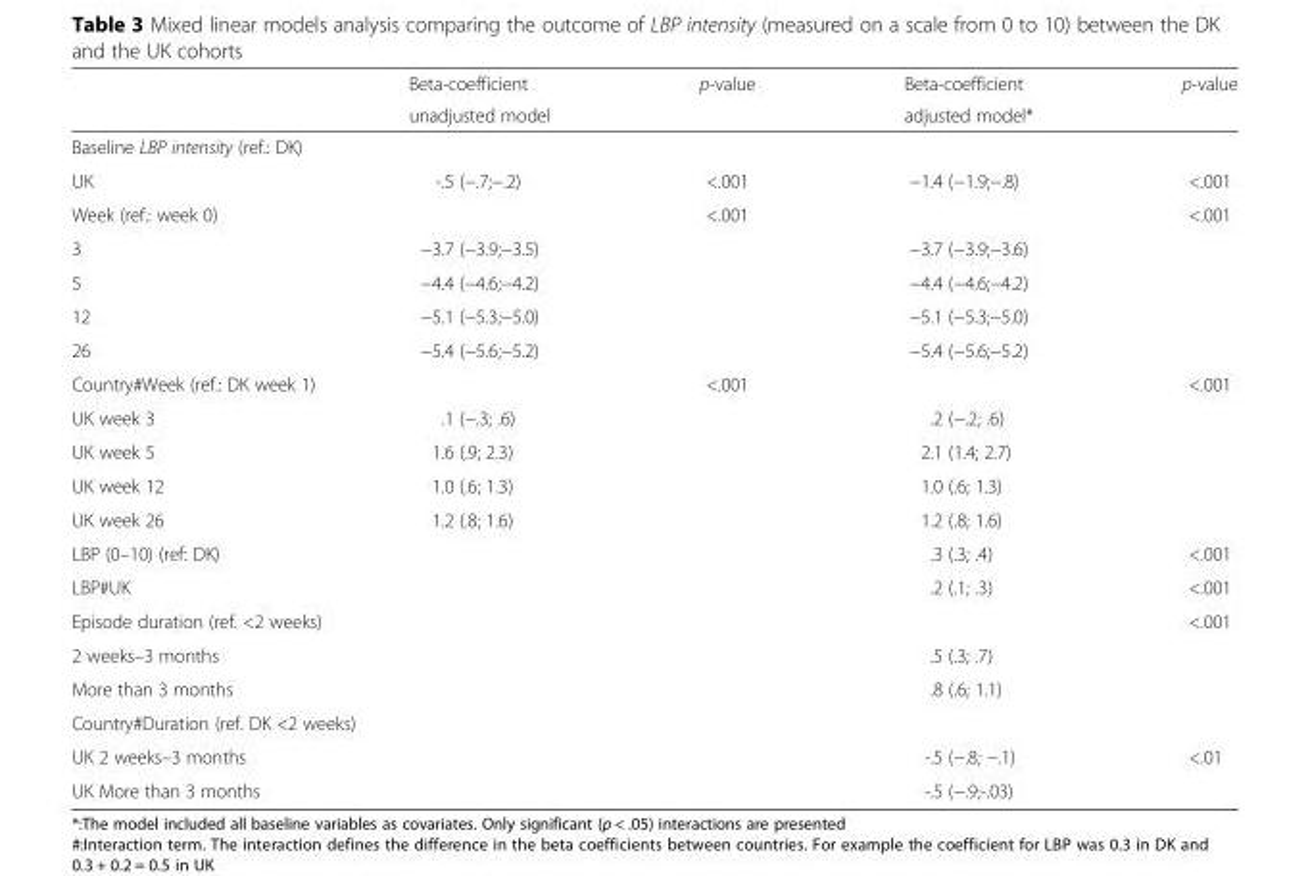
<table><thead><tr><td rowspan="2"></td><td rowspan="2">Beta-coefficient unadjusted model</td><td rowspan="2">p-value</td><td rowspan="2">Beta-coefficient adjusted model*</td><td rowspan="2">p-value</td></tr><tr></tr></thead><tbody><tr><td colspan="5">Baseline LBP intensity (ref.: DK)</td></tr><tr><td>UK</td><td>-.5 (−.7;−.2)</td><td>&lt;.001</td><td>−1.4 (−1.9;−.8)</td><td>&lt;.001</td></tr><tr><td colspan="2">Week (ref.: week 0)</td><td>&lt;.001</td><td></td><td>&lt;.001</td></tr><tr><td>3</td><td>−3.7 (−3.9;−3.5)</td><td rowspan="4"></td><td>−3.7 (−3.9;−3.6)</td><td rowspan="4"></td></tr><tr><td>5</td><td>−4.4 (−4.6;−4.2)</td><td>−4.4 (−4.6;−4.2)</td></tr><tr><td>12</td><td>−5.1 (−5.3;−5.0)</td><td>−5.1 (−5.3;−5.0)</td></tr><tr><td>26</td><td>−5.4 (−5.6;−5.2)</td><td>−5.4 (−5.6;−5.2)</td></tr><tr><td colspan="2">Country#Week (ref.: DK week 1)</td><td>&lt;.001</td><td></td><td>&lt;.001</td></tr><tr><td>UK week 3</td><td>.1 (−.3; .6)</td><td rowspan="4"></td><td>.2 (−.2; .6)</td><td rowspan="4"></td></tr><tr><td>UK week 5</td><td>1.6 (.9; 2.3)</td><td>2.1 (1.4; 2.7)</td></tr><tr><td>UK week 12</td><td>1.0 (.6; 1.3)</td><td>1.0 (.6; 1.3)</td></tr><tr><td>UK week 26</td><td>1.2 (.8; 1.6)</td><td>1.2 (.8; 1.6)</td></tr><tr><td>LBP (0–10) (ref: DK)</td><td></td><td></td><td>.3 (.3; .4)</td><td>&lt;.001</td></tr><tr><td>LBP#UK</td><td></td><td></td><td>.2 (.1; .3)</td><td>&lt;.001</td></tr><tr><td colspan="4">Episode duration (ref. &lt;2 weeks)</td><td>&lt;.001</td></tr><tr><td>2 weeks–3 months</td><td></td><td></td><td>.5 (.3; .7)</td><td rowspan="2"></td></tr><tr><td>More than 3 months</td><td></td><td></td><td>.8 (.6; 1.1)</td></tr><tr><td colspan="5">Country#Duration (ref. DK &lt;2 weeks)</td></tr><tr><td>UK 2 weeks–3 months</td><td></td><td></td><td>-.5 (−.8; −.1)</td><td rowspan="2">&lt;.01</td></tr><tr><td>UK More than 3 months</td><td></td><td></td><td>-.5 (−.9;-.03)</td></tr></tbody></table>